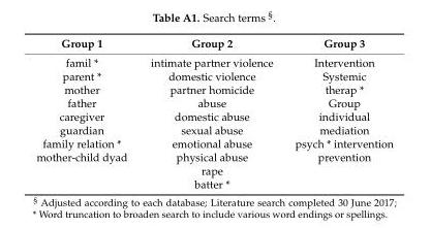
<table><thead><tr><td>Group 1</td><td>Group 2</td><td>Group 3</td></tr></thead><tbody><tr><td>famil *</td><td>intimate partner violence</td><td>Intervention</td></tr><tr><td>parent *</td><td>domestic violence</td><td>Systemic</td></tr><tr><td>mother</td><td>partner homicide</td><td>therap *</td></tr><tr><td>father</td><td>abuse</td><td>Group</td></tr><tr><td>caregiver</td><td>domestic abuse</td><td>individual</td></tr><tr><td>guardian</td><td>sexual abuse</td><td>mediation</td></tr><tr><td>family relation *</td><td>emotional abuse</td><td>psych * intervention</td></tr><tr><td rowspan="3">mother-child dyad</td><td>physical abuse</td><td>prevention</td></tr><tr><td>rape</td><td></td></tr><tr><td>batter *</td><td></td></tr></tbody></table>